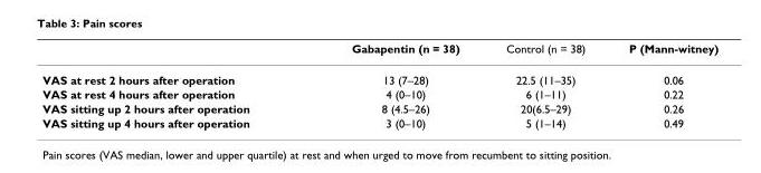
<table><thead><tr><td></td><td>Gabapentin (n = 38)</td><td>Control (n = 38)</td><td>P (Mann-witney)</td></tr></thead><tbody><tr><td>VAS at rest 2 hours after operation</td><td>13 (7–28)</td><td>22.5 (11–35)</td><td>0.06</td></tr><tr><td>VAS at rest 4 hours after operation</td><td>4 (0–10)</td><td>6 (1–11)</td><td>0.22</td></tr><tr><td>VAS sitting up 2 hours after operation</td><td>8 (4.5–26)</td><td>20(6.5–29)</td><td>0.26</td></tr><tr><td>VAS sitting up 4 hours after operation</td><td>3 (0–10)</td><td>5 (1–14)</td><td>0.49</td></tr></tbody></table>